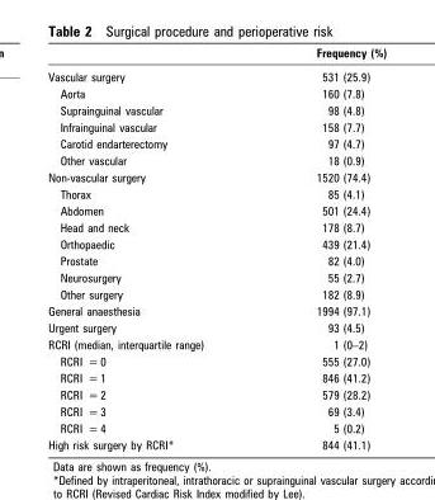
<table><thead><tr><td></td><td>Frequency (%)</td></tr></thead><tbody><tr><td>Vascular surgery</td><td>531 (25.9)</td></tr><tr><td>Aorta</td><td>160 (7.8)</td></tr><tr><td>Suprainguinal vascular</td><td>98 (4.8)</td></tr><tr><td>Infrainguinal vascular</td><td>158 (7.7)</td></tr><tr><td>Carotid endarterectomy</td><td>97 (4.7)</td></tr><tr><td>Other vascular</td><td>18 (0.9)</td></tr><tr><td>Non-vascular surgery</td><td>1520 (74.4)</td></tr><tr><td>Thorax</td><td>85 (4.1)</td></tr><tr><td>Abdomen</td><td>501 (24.4)</td></tr><tr><td>Head and neck</td><td>178 (8.7)</td></tr><tr><td>Orthopaedic</td><td>439 (21.4)</td></tr><tr><td>Prostate</td><td>82 (4.0)</td></tr><tr><td>Neurosurgery</td><td>55 (2.7)</td></tr><tr><td>Other surgery</td><td>182 (8.9)</td></tr><tr><td>General anaesthesia</td><td>1994 (97.1)</td></tr><tr><td>Urgent surgery</td><td>93 (4.5)</td></tr><tr><td>RCRI (median, interquartile range)</td><td>1 (0–2)</td></tr><tr><td>RCRI = 0</td><td>555 (27.0)</td></tr><tr><td>RCRI = 1</td><td>846 (41.2)</td></tr><tr><td>RCRI = 2</td><td>579 (28.2)</td></tr><tr><td>RCRI = 3</td><td>69 (3.4)</td></tr><tr><td>RCRI = 4</td><td>5 (0.2)</td></tr><tr><td>High risk surgery by RCRI*</td><td>844 (41.1)</td></tr></tbody></table>